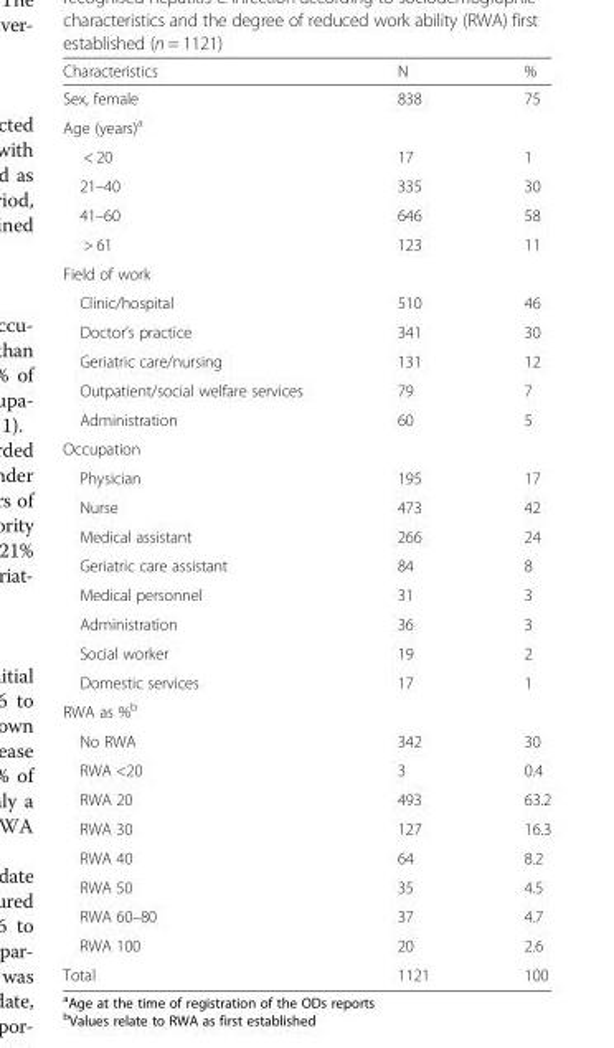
<table><thead><tr><td>Characteristics</td><td>N</td><td>%</td></tr></thead><tbody><tr><td>Sex, female</td><td>838</td><td>75</td></tr><tr><td colspan="3">Age (years)<sup>a</sup></td></tr><tr><td>&lt; 20</td><td>17</td><td>1</td></tr><tr><td>21–40</td><td>335</td><td>30</td></tr><tr><td>41–60</td><td>646</td><td>58</td></tr><tr><td>&gt; 61</td><td>123</td><td>11</td></tr><tr><td colspan="3">Field of work</td></tr><tr><td>Clinic/hospital</td><td>510</td><td>46</td></tr><tr><td>Doctor’s practice</td><td>341</td><td>30</td></tr><tr><td>Geriatric care/nursing</td><td>131</td><td>12</td></tr><tr><td>Outpatient/social welfare services</td><td>79</td><td>7</td></tr><tr><td>Administration</td><td>60</td><td>5</td></tr><tr><td colspan="3">Occupation</td></tr><tr><td>Physician</td><td>195</td><td>17</td></tr><tr><td>Nurse</td><td>473</td><td>42</td></tr><tr><td>Medical assistant</td><td>266</td><td>24</td></tr><tr><td>Geriatric care assistant</td><td>84</td><td>8</td></tr><tr><td>Medical personnel</td><td>31</td><td>3</td></tr><tr><td>Administration</td><td>36</td><td>3</td></tr><tr><td>Social worker</td><td>19</td><td>2</td></tr><tr><td>Domestic services</td><td>17</td><td>1</td></tr><tr><td colspan="3">RWA as %<sup>b</sup></td></tr><tr><td>No RWA</td><td>342</td><td>30</td></tr><tr><td>RWA &lt;20</td><td>3</td><td>0.4</td></tr><tr><td>RWA 20</td><td>493</td><td>63.2</td></tr><tr><td>RWA 30</td><td>127</td><td>16.3</td></tr><tr><td>RWA 40</td><td>64</td><td>8.2</td></tr><tr><td>RWA 50</td><td>35</td><td>4.5</td></tr><tr><td>RWA 60–80</td><td>37</td><td>4.7</td></tr><tr><td>RWA 100</td><td>20</td><td>2.6</td></tr><tr><td>Total</td><td>1121</td><td>100</td></tr></tbody></table>